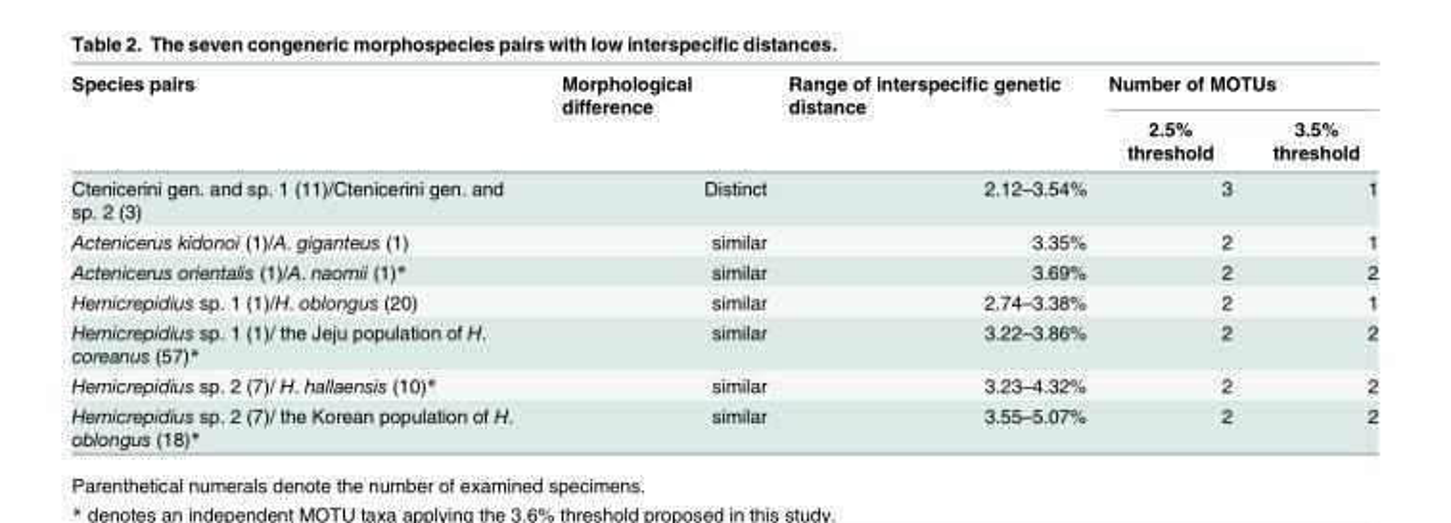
<table><thead><tr><td rowspan="2">Species pairs</td><td rowspan="2">Morphological difference</td><td rowspan="2">Range of interspecific genetic distance</td><td colspan="2">Number of MOTUs</td></tr><tr><td>2.5% threshold</td><td>3.5% threshold</td></tr></thead><tbody><tr><td>Ctenicerini gen. and sp. 1 (11)/Ctenicerini gen. and sp. 2 (3)</td><td>Distinct</td><td>2.12–3.54%</td><td>3</td><td>1</td></tr><tr><td>Actenicerus kidonoi (1)/A. giganteus (1)</td><td>similar</td><td>3.35%</td><td>2</td><td>1</td></tr><tr><td>Actenicerus orientalis (1)/A. naomii (1)*</td><td>similar</td><td>3.69%</td><td>2</td><td>2</td></tr><tr><td>Hemicrepidius sp. 1 (1)/H. oblongus (20)</td><td>similar</td><td>2.74–3.38%</td><td>2</td><td>1</td></tr><tr><td>Hemicrepidius sp. 1 (1)/ the Jeju population of H. coreanus (57)*</td><td>similar</td><td>3.22–3.86%</td><td>2</td><td>2</td></tr><tr><td>Hemicrepidius sp. 2 (7)/ H. hallaensis (10)*</td><td>similar</td><td>3.23–4.32%</td><td>2</td><td>2</td></tr><tr><td>Hemicrepidius sp. 2 (7)/ the Korean population of H. oblongus (18)*</td><td>similar</td><td>3.55–5.07%</td><td>2</td><td>2</td></tr></tbody></table>